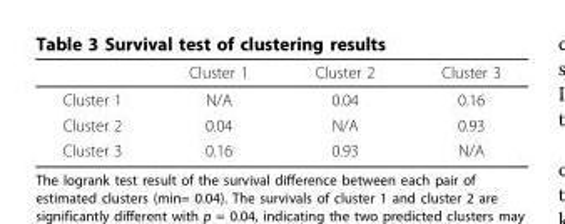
<table><thead><tr><td></td><td>Cluster 1</td><td>Cluster 2</td><td>Cluster 3</td></tr></thead><tbody><tr><td>Cluster 1</td><td>N/A</td><td>0.04</td><td>0.16</td></tr><tr><td>Cluster 2</td><td>0.04</td><td>N/A</td><td>0.93</td></tr><tr><td>Cluster 3</td><td>0.16</td><td>0.93</td><td>N/A</td></tr></tbody></table>